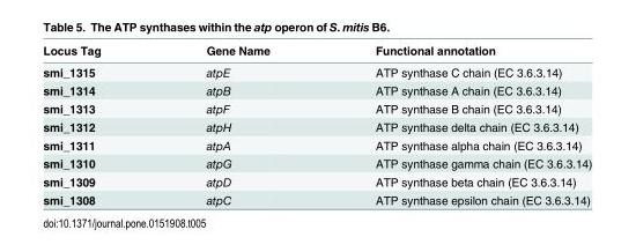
<table><thead><tr><td>Locus Tag</td><td>Gene Name</td><td>Functional annotation</td></tr></thead><tbody><tr><td>smi_1315</td><td>atpE</td><td>ATP synthase C chain (EC 3.6.3.14)</td></tr><tr><td>smi_1314</td><td>atpB</td><td>ATP synthase A chain (EC 3.6.3.14)</td></tr><tr><td>smi_1313</td><td>atpF</td><td>ATP synthase B chain (EC 3.6.3.14)</td></tr><tr><td>smi_1312</td><td>atpH</td><td>ATP synthase delta chain (EC 3.6.3.14)</td></tr><tr><td>smi_1311</td><td>atpA</td><td>ATP synthase alpha chain (EC 3.6.3.14)</td></tr><tr><td>smi_1310</td><td>atpG</td><td>ATP synthase gamma chain (EC 3.6.3.14)</td></tr><tr><td>smi_1309</td><td>atpD</td><td>ATP synthase beta chain (EC 3.6.3.14)</td></tr><tr><td>smi_1308</td><td>atpC</td><td>ATP synthase epsilon chain (EC 3.6.3.14)</td></tr></tbody></table>